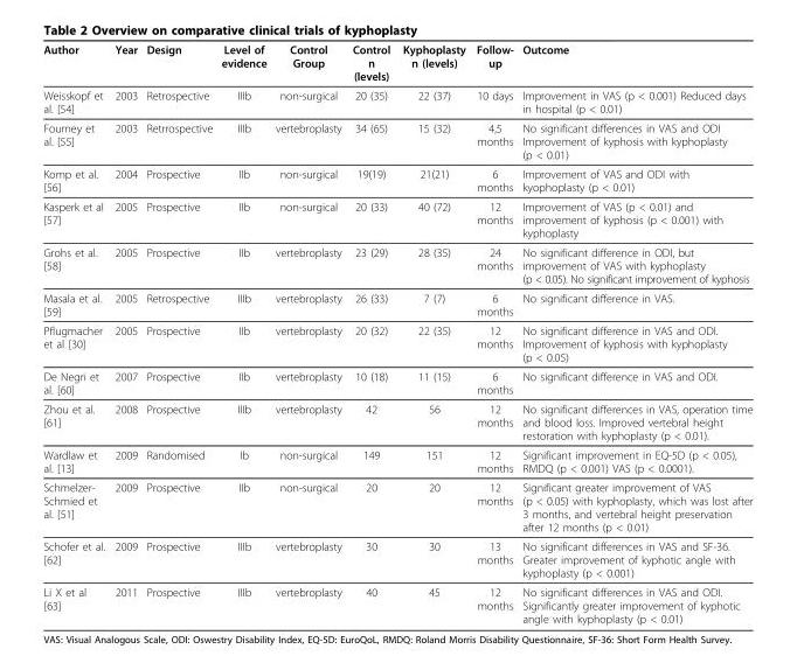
<table><thead><tr><td>Author</td><td>Year</td><td>Design</td><td>Level of evidence</td><td>Control Group</td><td>Control n (levels)</td><td>Kyphoplasty n (levels)</td><td>Follow- up</td><td>Outcome</td></tr></thead><tbody><tr><td>Weisskopf et al. [54]</td><td>2003</td><td>Retrospective</td><td>IIIb</td><td>non-surgical</td><td>20 (35)</td><td>22 (37)</td><td>10 days</td><td>Improvement in VAS (p &lt; 0.001) Reduced days in hospital (p &lt; 0.01)</td></tr><tr><td>Fourney et al. [55]</td><td>2003</td><td>Retrrospective</td><td>IIIb</td><td>vertebroplasty</td><td>34 (65)</td><td>15 (32)</td><td>4,5 months</td><td>No significant differences in VAS and ODI Improvement of kyphosis with kyphoplasty (p &lt; 0.01)</td></tr><tr><td>Komp et al. [56]</td><td>2004</td><td>Prospective</td><td>IIb</td><td>non-surgical</td><td>19(19)</td><td>21(21)</td><td>6 months</td><td>Improvement of VAS and ODI with kyophoplasty (p &lt; 0.01)</td></tr><tr><td>Kasperk et al [57]</td><td>2005</td><td>Prospective</td><td>IIb</td><td>non-surgical</td><td>20 (33)</td><td>40 (72)</td><td>12 months</td><td>Improvement of VAS (p &lt; 0.01) and improvement of kyphosis (p &lt; 0.001) with kyphoplasty</td></tr><tr><td>Grohs et al. [58]</td><td>2005</td><td>Prospective</td><td>IIb</td><td>vertebroplasty</td><td>23 (29)</td><td>28 (35)</td><td>24 months</td><td>No significant difference in ODI, but improvement of VAS with kyphoplasty (p &lt; 0.05). No significant improvement of kyphosis</td></tr><tr><td>Masala et al. [59]</td><td>2005</td><td>Retrospective</td><td>IIIb</td><td>vertebroplasty</td><td>26 (33)</td><td>7 (7)</td><td>6 months</td><td>No significant difference in VAS.</td></tr><tr><td>Pflugmacher et al [30]</td><td>2005</td><td>Prospective</td><td>IIb</td><td>vertebroplasty</td><td>20 (32)</td><td>22 (35)</td><td>12 months</td><td>No significant difference in VAS and ODI. Improvement of kyphosis with kyphoplasty (p &lt; 0.05)</td></tr><tr><td>De Negri et al. [60]</td><td>2007</td><td>Prospective</td><td>IIb</td><td>vertebroplasty</td><td>10 (18)</td><td>11 (15)</td><td>6 months</td><td>No significant difference in VAS and ODI.</td></tr><tr><td>Zhou et al. [61]</td><td>2008</td><td>Prospective</td><td>IIIb</td><td>vertebroplasty</td><td>42</td><td>56</td><td>12 months</td><td>No significant differences in VAS, operation time and blood loss. Improved vertebral height restoration with kyphoplasty (p &lt; 0.01).</td></tr><tr><td>Wardlaw et al. [13]</td><td>2009</td><td>Randomised</td><td>Ib</td><td>non-surgical</td><td>149</td><td>151</td><td>12 months</td><td>Significant improvement in EQ-5D (p &lt; 0.05), RMDQ (p &lt; 0.001) VAS (p &lt; 0.0001).</td></tr><tr><td>Schmelzer- Schmied et al. [51]</td><td>2009</td><td>Prospective</td><td>IIb</td><td>non-surgical</td><td>20</td><td>20</td><td>12 months</td><td>Significant greater improvement of VAS (p &lt; 0.05) with kyphoplasty, which was lost after 3 months, and vertebral height preservation after 12 months (p &lt; 0.01)</td></tr><tr><td>Schofer et al. [62]</td><td>2009</td><td>Prospective</td><td>IIIb</td><td>vertebroplasty</td><td>30</td><td>30</td><td>13 months</td><td>No significant differences in VAS and SF-36. Greater improvement of kyphotic angle with kyphoplasty (p &lt; 0.001)</td></tr><tr><td>Li X et al [63]</td><td>2011</td><td>Prospective</td><td>IIIb</td><td>vertebroplasty</td><td>40</td><td>45</td><td>12 months</td><td>No significant differences in VAS and ODI. Significantly greater improvement of kyphotic angle with kyphoplasty (p &lt; 0.01)</td></tr></tbody></table>